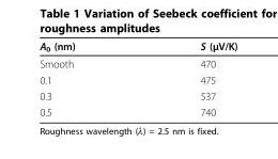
<table><thead><tr><td>A<sub>0</sub> (nm)</td><td>S (μV/K)</td></tr></thead><tbody><tr><td>Smooth</td><td>470</td></tr><tr><td>0.1</td><td>475</td></tr><tr><td>0.3</td><td>537</td></tr><tr><td>0.5</td><td>740</td></tr></tbody></table>